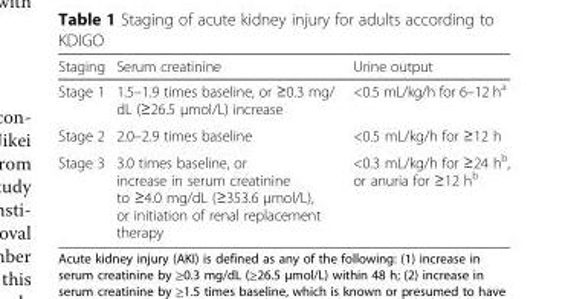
<table><thead><tr><td>Staging</td><td>Serum creatinine</td><td>Urine output</td></tr></thead><tbody><tr><td>Stage 1</td><td>1.5–1.9 times baseline, or ≥0.3 mg/ dL (≥26.5 μmol/L) increase</td><td>&lt;0.5 mL/kg/h for 6–12 h<sup>a</sup></td></tr><tr><td>Stage 2</td><td>2.0–2.9 times baseline</td><td>&lt;0.5 mL/kg/h for ≥12 h</td></tr><tr><td>Stage 3</td><td>3.0 times baseline, or increase in serum creatinine to ≥4.0 mg/dL (≥353.6 μmol/L), or initiation of renal replacement therapy</td><td>&lt;0.3 mL/kg/h for ≥24 h<sup>b</sup>, or anuria for ≥12 h<sup>b</sup></td></tr></tbody></table>